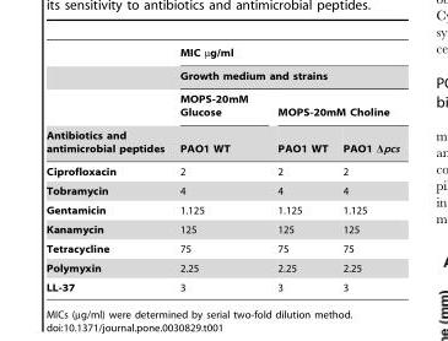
<table><thead><tr><td rowspan="4">Antibiotics and antimicrobial peptides</td><td rowspan="2" colspan="3">MIC µg/ml Growth medium and strains</td></tr><tr></tr><tr><td rowspan="2">MOPS-20mM Glucose PAO1 WT</td><td colspan="2">MOPS-20mM Choline</td></tr><tr><td>PAO1 WT</td><td>PAO1 Δpcs</td></tr></thead><tbody><tr><td>Ciprofloxacin</td><td>2</td><td>2</td><td>2</td></tr><tr><td>Tobramycin</td><td>4</td><td>4</td><td>4</td></tr><tr><td>Gentamicin</td><td>1.125</td><td>1.125</td><td>1.125</td></tr><tr><td>Kanamycin</td><td>125</td><td>125</td><td>125</td></tr><tr><td>Tetracycline</td><td>75</td><td>75</td><td>75</td></tr><tr><td>Polymyxin</td><td>2.25</td><td>2.25</td><td>2.25</td></tr><tr><td>LL-37</td><td>3</td><td>3</td><td>3</td></tr></tbody></table>